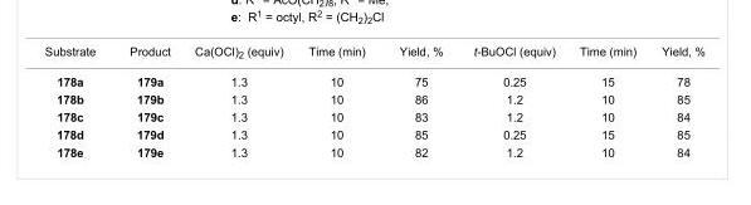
<table><tbody><tr><td>Substrate</td><td>Product</td><td>Ca(OCl)<sub>2</sub> (equiv)</td><td>Time (min)</td><td>Yield, %</td><td>t-BuOCl (equiv)</td><td>Time (min)</td><td>Yield, %</td></tr><tr><td>178a</td><td>179a</td><td>1.3</td><td>10</td><td>75</td><td>0.25</td><td>15</td><td>78</td></tr><tr><td>178b</td><td>179b</td><td>1.3</td><td>10</td><td>86</td><td>1.2</td><td>10</td><td>85</td></tr><tr><td>178c</td><td>179c</td><td>1.3</td><td>10</td><td>83</td><td>1.2</td><td>10</td><td>84</td></tr><tr><td>178d</td><td>179d</td><td>1.3</td><td>10</td><td>85</td><td>0.25</td><td>15</td><td>85</td></tr><tr><td>178e</td><td>179e</td><td>1.3</td><td>10</td><td>82</td><td>1.2</td><td>10</td><td>84</td></tr></tbody></table>